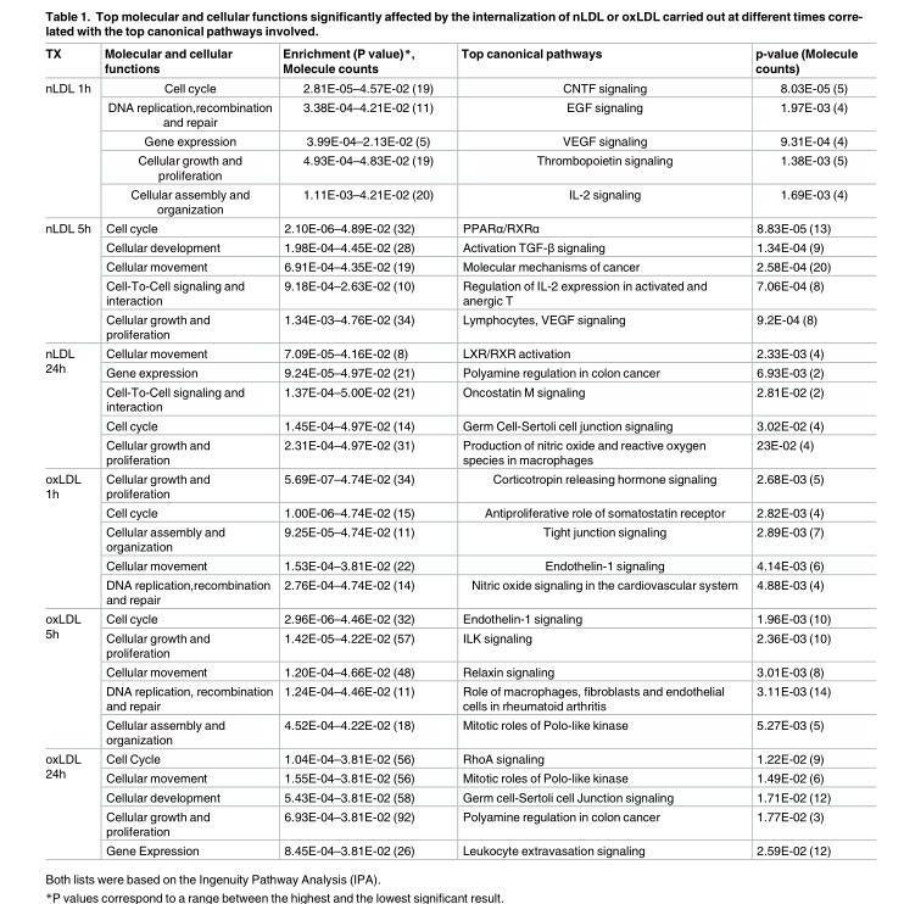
<table><thead><tr><td>TX</td><td>Molecular and cellular functions</td><td>Enrichment (P value)*, Molecule counts</td><td>Top canonical pathways</td><td>p-value (Molecule counts)</td></tr></thead><tbody><tr><td rowspan="5">nLDL 1h</td><td>Cell cycle</td><td>2.81E-05–4.57E-02 (19)</td><td>CNTF signaling</td><td>8.03E-05 (5)</td></tr><tr><td>DNA replication,recombination and repair</td><td>3.38E-04–4.21E-02 (11)</td><td>EGF signaling</td><td>1.97E-03 (4)</td></tr><tr><td>Gene expression</td><td>3.99E-04–2.13E-02 (5)</td><td>VEGF signaling</td><td>9.31E-04 (4)</td></tr><tr><td>Cellular growth and proliferation</td><td>4.93E-04–4.83E-02 (19)</td><td>Thrombopoietin signaling</td><td>1.38E-03 (5)</td></tr><tr><td>Cellular assembly and organization</td><td>1.11E-03–4.21E-02 (20)</td><td>IL-2 signaling</td><td>1.69E-03 (4)</td></tr><tr><td rowspan="5">nLDL 5h</td><td>Cell cycle</td><td>2.10E-06–4.89E-02 (32)</td><td>PPARα/RXRα</td><td>8.83E-05 (13)</td></tr><tr><td>Cellular development</td><td>1.98E-04–4.45E-02 (28)</td><td>Activation TGF-β signaling</td><td>1.34E-04 (9)</td></tr><tr><td>Cellular movement</td><td>6.91E-04–4.35E-02 (19)</td><td>Molecular mechanisms of cancer</td><td>2.58E-04 (20)</td></tr><tr><td>Cell-To-Cell signaling and interaction</td><td>9.18E-04–2.63E-02 (10)</td><td>Regulation of IL-2 expression in activated and anergic T</td><td>7.06E-04 (8)</td></tr><tr><td>Cellular growth and proliferation</td><td>1.34E-03–4.76E-02 (34)</td><td>Lymphocytes, VEGF signaling</td><td>9.2E-04 (8)</td></tr><tr><td rowspan="5">nLDL 24h</td><td>Cellular movement</td><td>7.09E-05–4.16E-02 (8)</td><td>LXR/RXR activation</td><td>2.33E-03 (4)</td></tr><tr><td>Gene expression</td><td>9.24E-05–4.97E-02 (21)</td><td>Polyamine regulation in colon cancer</td><td>6.93E-03 (2)</td></tr><tr><td>Cell-To-Cell signaling and interaction</td><td>1.37E-04–5.00E-02 (21)</td><td>Oncostatin M signaling</td><td>2.81E-02 (2)</td></tr><tr><td>Cell cycle</td><td>1.45E-04–4.97E-02 (14)</td><td>Germ Cell-Sertoli cell junction signaling</td><td>3.02E-02 (4)</td></tr><tr><td>Cellular growth and proliferation</td><td>2.31E-04–4.97E-02 (31)</td><td>Production of nitric oxide and reactive oxygen species in macrophages</td><td>23E-02 (4)</td></tr><tr><td rowspan="5">oxLDL 1h</td><td>Cellular growth and proliferation</td><td>5.69E-07–4.74E-02 (34)</td><td>Corticotropin releasing hormone signaling</td><td>2.68E-03 (5)</td></tr><tr><td>Cell cycle</td><td>1.00E-06–4.74E-02 (15)</td><td>Antiproliferative role of somatostatin receptor</td><td>2.82E-03 (4)</td></tr><tr><td>Cellular assembly and organization</td><td>9.25E-05–4.74E-02 (11)</td><td>Tight junction signaling</td><td>2.89E-03 (7)</td></tr><tr><td>Cellular movement</td><td>1.53E-04–3.81E-02 (22)</td><td>Endothelin-1 signaling</td><td>4.14E-03 (6)</td></tr><tr><td>DNA replication,recombination and repair</td><td>2.76E-04–4.74E-02 (14)</td><td>Nitric oxide signaling in the cardiovascular system</td><td>4.88E-03 (4)</td></tr><tr><td rowspan="5">oxLDL 5h</td><td>Cell cycle</td><td>2.96E-06–4.46E-02 (32)</td><td>Endothelin-1 signaling</td><td>1.96E-03 (10)</td></tr><tr><td>Cellular growth and proliferation</td><td>1.42E-05–4.22E-02 (57)</td><td>ILK signaling</td><td>2.36E-03 (10)</td></tr><tr><td>Cellular movement</td><td>1.20E-04–4.66E-02 (48)</td><td>Relaxin signaling</td><td>3.01E-03 (8)</td></tr><tr><td>DNA replication, recombination and repair</td><td>1.24E-04–4.46E-02 (11)</td><td>Role of macrophages, fibroblasts and endothelial cells in rheumatoid arthritis</td><td>3.11E-03 (14)</td></tr><tr><td>Cellular assembly and organization</td><td>4.52E-04–4.22E-02 (18)</td><td>Mitotic roles of Polo-like kinase</td><td>5.27E-03 (5)</td></tr><tr><td rowspan="5">oxLDL 24h</td><td>Cell Cycle</td><td>1.04E-04–3.81E-02 (56)</td><td>RhoA signaling</td><td>1.22E-02 (9)</td></tr><tr><td>Cellular movement</td><td>1.55E-04–3.81E-02 (56)</td><td>Mitotic roles of Polo-like kinase</td><td>1.49E-02 (6)</td></tr><tr><td>Cellular development</td><td>5.43E-04–3.81E-02 (58)</td><td>Germ cell-Sertoli cell Junction signaling</td><td>1.71E-02 (12)</td></tr><tr><td>Cellular growth and proliferation</td><td>6.93E-04–3.81E-02 (92)</td><td>Polyamine regulation in colon cancer</td><td>1.77E-02 (3)</td></tr><tr><td>Gene Expression</td><td>8.45E-04–3.81E-02 (26)</td><td>Leukocyte extravasation signaling</td><td>2.59E-02 (12)</td></tr></tbody></table>